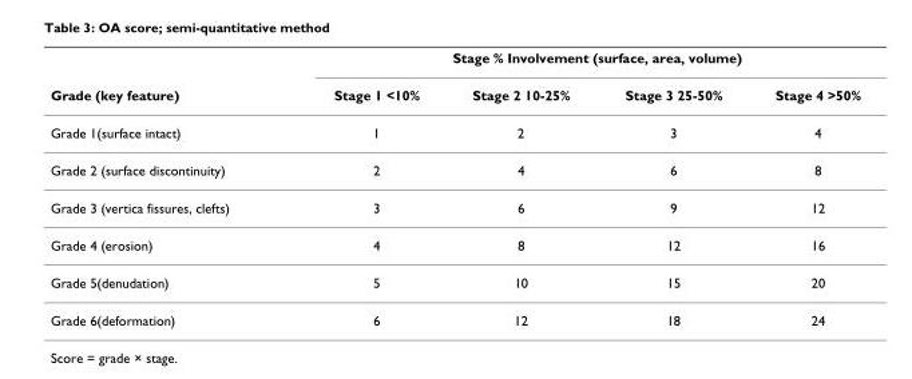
<table><thead><tr><td rowspan="2">Grade (key feature)</td><td colspan="4">Stage % Involvement (surface, area, volume)</td></tr><tr><td>Stage 1 &lt;10%</td><td>Stage 2 10-25%</td><td>Stage 3 25-50%</td><td>Stage 4 &gt;50%</td></tr></thead><tbody><tr><td>Grade 1(surface intact)</td><td>1</td><td>2</td><td>3</td><td>4</td></tr><tr><td>Grade 2 (surface discontinuity)</td><td>2</td><td>4</td><td>6</td><td>8</td></tr><tr><td>Grade 3 (vertica fissures, clefts)</td><td>3</td><td>6</td><td>9</td><td>12</td></tr><tr><td>Grade 4 (erosion)</td><td>4</td><td>8</td><td>12</td><td>16</td></tr><tr><td>Grade 5(denudation)</td><td>5</td><td>10</td><td>15</td><td>20</td></tr><tr><td>Grade 6(deformation)</td><td>6</td><td>12</td><td>18</td><td>24</td></tr></tbody></table>